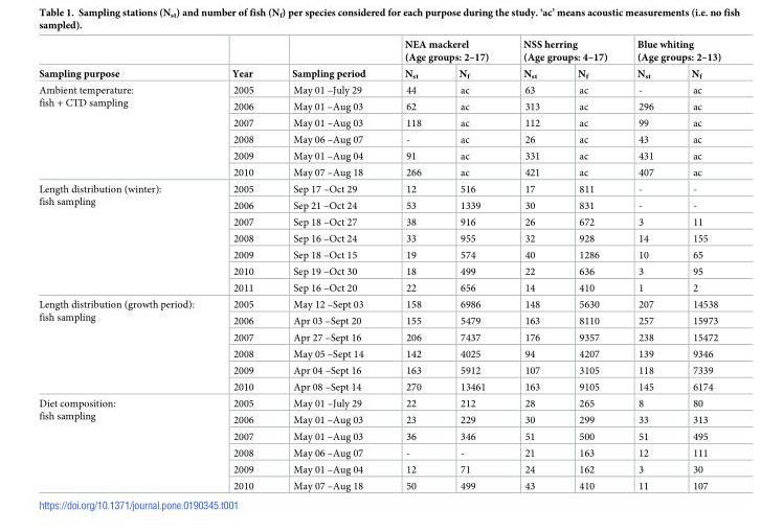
<table><thead><tr><td rowspan="2">Sampling purpose</td><td rowspan="2">Year</td><td rowspan="2">Sampling period</td><td colspan="2">NEA mackerel (Age groups: 2–17)</td><td colspan="2">NSS herring (Age groups: 4–17)</td><td colspan="2">Blue whiting (Age groups: 2–13)</td></tr><tr><td>N<sub>st</sub></td><td>N<sub>f</sub></td><td>N<sub>st</sub></td><td>N<sub>f</sub></td><td>N<sub>st</sub></td><td>N<sub>f</sub></td></tr></thead><tbody><tr><td rowspan="6">Ambient temperature: fish + CTD sampling</td><td>2005</td><td>May 01 –July 29</td><td>44</td><td>ac</td><td>63</td><td>ac</td><td>-</td><td>ac</td></tr><tr><td>2006</td><td>May 01 –Aug 03</td><td>62</td><td>ac</td><td>313</td><td>ac</td><td>296</td><td>ac</td></tr><tr><td>2007</td><td>May 01 –Aug 03</td><td>118</td><td>ac</td><td>112</td><td>ac</td><td>99</td><td>ac</td></tr><tr><td>2008</td><td>May 06 –Aug 07</td><td>-</td><td>ac</td><td>26</td><td>ac</td><td>43</td><td>ac</td></tr><tr><td>2009</td><td>May 01 –Aug 04</td><td>91</td><td>ac</td><td>331</td><td>ac</td><td>431</td><td>ac</td></tr><tr><td>2010</td><td>May 07 –Aug 18</td><td>266</td><td>ac</td><td>421</td><td>ac</td><td>407</td><td>ac</td></tr><tr><td rowspan="7">Length distribution (winter): fish sampling</td><td>2005</td><td>Sep 17 –Oct 29</td><td>12</td><td>516</td><td>17</td><td>811</td><td>-</td><td>-</td></tr><tr><td>2006</td><td>Sep 21 –Oct 24</td><td>53</td><td>1339</td><td>30</td><td>831</td><td>-</td><td>-</td></tr><tr><td>2007</td><td>Sep 18 –Oct 27</td><td>38</td><td>916</td><td>26</td><td>672</td><td>3</td><td>11</td></tr><tr><td>2008</td><td>Sep 16 –Oct 24</td><td>33</td><td>955</td><td>32</td><td>928</td><td>14</td><td>155</td></tr><tr><td>2009</td><td>Sep 18 –Oct 15</td><td>19</td><td>574</td><td>40</td><td>1286</td><td>10</td><td>65</td></tr><tr><td>2010</td><td>Sep 19 –Oct 30</td><td>18</td><td>499</td><td>22</td><td>636</td><td>3</td><td>95</td></tr><tr><td>2011</td><td>Sep 16 –Oct 20</td><td>22</td><td>656</td><td>14</td><td>410</td><td>1</td><td>2</td></tr><tr><td rowspan="6">Length distribution (growth period): fish sampling</td><td>2005</td><td>May 12 –Sept 03</td><td>158</td><td>6986</td><td>148</td><td>5630</td><td>207</td><td>14538</td></tr><tr><td>2006</td><td>Apr 03 –Sept 20</td><td>155</td><td>5479</td><td>163</td><td>8110</td><td>257</td><td>15973</td></tr><tr><td>2007</td><td>Apr 27 –Sept 16</td><td>206</td><td>7437</td><td>176</td><td>9357</td><td>238</td><td>15472</td></tr><tr><td>2008</td><td>May 05 –Sept 14</td><td>142</td><td>4025</td><td>94</td><td>4207</td><td>139</td><td>9346</td></tr><tr><td>2009</td><td>Apr 04 –Sept 16</td><td>163</td><td>5912</td><td>107</td><td>3105</td><td>118</td><td>7339</td></tr><tr><td>2010</td><td>Apr 08 –Sept 14</td><td>270</td><td>13461</td><td>163</td><td>9105</td><td>145</td><td>6174</td></tr><tr><td rowspan="6">Diet composition: fish sampling</td><td>2005</td><td>May 01 –July 29</td><td>22</td><td>212</td><td>28</td><td>265</td><td>8</td><td>80</td></tr><tr><td>2006</td><td>May 01 –Aug 03</td><td>23</td><td>229</td><td>30</td><td>299</td><td>33</td><td>313</td></tr><tr><td>2007</td><td>May 01 –Aug 03</td><td>36</td><td>346</td><td>51</td><td>500</td><td>51</td><td>495</td></tr><tr><td>2008</td><td>May 06 –Aug 07</td><td>-</td><td>-</td><td>21</td><td>163</td><td>12</td><td>111</td></tr><tr><td>2009</td><td>May 01 –Aug 04</td><td>12</td><td>71</td><td>24</td><td>162</td><td>3</td><td>30</td></tr><tr><td>2010</td><td>May 07 –Aug 18</td><td>50</td><td>499</td><td>43</td><td>410</td><td>11</td><td>107</td></tr></tbody></table>